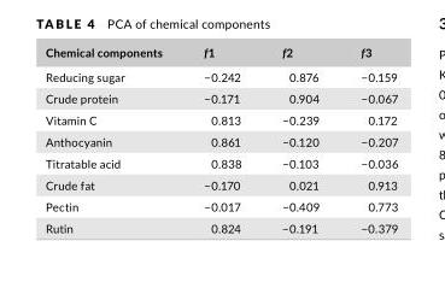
<table><thead><tr><td>Chemical components</td><td>f1</td><td>f2</td><td>f3</td></tr></thead><tbody><tr><td>Reducing sugar</td><td>−0.242</td><td>0.876</td><td>−0.159</td></tr><tr><td>Crude protein</td><td>−0.171</td><td>0.904</td><td>−0.067</td></tr><tr><td>Vitamin C</td><td>0.813</td><td>−0.239</td><td>0.172</td></tr><tr><td>Anthocyanin</td><td>0.861</td><td>−0.120</td><td>−0.207</td></tr><tr><td>Titratable acid</td><td>0.838</td><td>−0.103</td><td>−0.036</td></tr><tr><td>Crude fat</td><td>−0.170</td><td>0.021</td><td>0.913</td></tr><tr><td>Pectin</td><td>−0.017</td><td>−0.409</td><td>0.773</td></tr><tr><td>Rutin</td><td>0.824</td><td>−0.191</td><td>−0.379</td></tr></tbody></table>